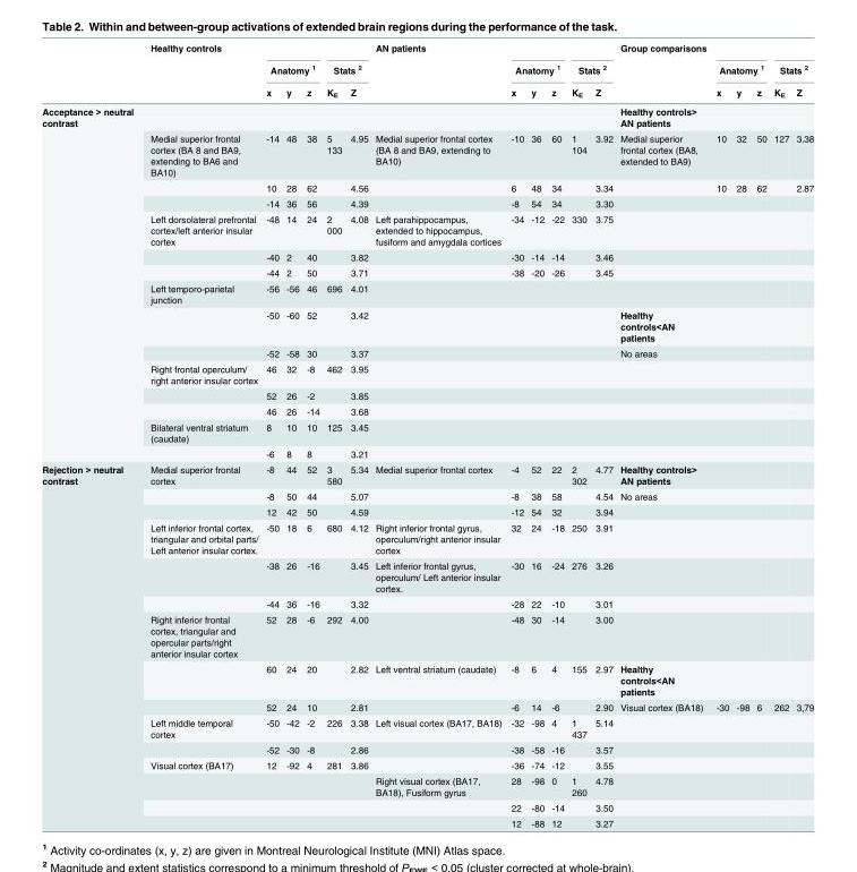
<table><thead><tr><td rowspan="3"></td><td rowspan="3">Healthy controls</td><td></td><td></td><td></td><td></td><td></td><td rowspan="3">AN patients</td><td></td><td></td><td></td><td></td><td></td><td rowspan="3">Group comparisons</td><td></td><td></td><td></td><td></td><td></td></tr><tr><td colspan="3">Anatomy <sup>1</sup></td><td colspan="2">Stats <sup>2</sup></td><td colspan="3">Anatomy <sup>1</sup></td><td colspan="2">Stats <sup>2</sup></td><td colspan="3">Anatomy <sup>1</sup></td><td colspan="2">Stats <sup>2</sup></td></tr><tr><td>x</td><td>y</td><td>z</td><td>K<sub>E</sub></td><td>Z</td><td>x</td><td>y</td><td>z</td><td>K<sub>E</sub></td><td>Z</td><td>x</td><td>y</td><td>z</td><td>K<sub>E</sub></td><td>Z</td></tr></thead><tbody><tr><td rowspan="15">Acceptance &gt; neutral contrast</td><td></td><td></td><td></td><td></td><td></td><td></td><td></td><td></td><td></td><td></td><td></td><td></td><td>Healthy controls&gt; AN patients</td><td></td><td></td><td></td><td></td><td></td></tr><tr><td>Medial superior frontal cortex (BA 8 and BA9, extending to BA6 and BA10)</td><td>-14</td><td>48</td><td>38</td><td>5 133</td><td>4.95</td><td>Medial superior frontal cortex (BA 8 and BA9, extending to BA10)</td><td>-10</td><td>36</td><td>60</td><td>1 104</td><td>3.92</td><td>Medial superior frontal cortex (BA8, extended to BA9)</td><td>10</td><td>32</td><td>50</td><td>127</td><td>3.38</td></tr><tr><td></td><td>10</td><td>28</td><td>62</td><td></td><td>4.56</td><td></td><td>6</td><td>48</td><td>34</td><td></td><td>3.34</td><td></td><td>10</td><td>28</td><td>62</td><td></td><td>2.87</td></tr><tr><td></td><td>-14</td><td>36</td><td>56</td><td></td><td>4.39</td><td></td><td>-8</td><td>54</td><td>34</td><td></td><td>3.30</td><td></td><td></td><td></td><td></td><td></td><td></td></tr><tr><td>Left dorsolateral prefrontal cortex/left anterior insular cortex</td><td>-48</td><td>14</td><td>24</td><td>2 000</td><td>4.08</td><td>Left parahippocampus, extended to hippocampus, fusiform and amygdala cortices</td><td>-34</td><td>-12</td><td>-22</td><td>330</td><td>3.75</td><td></td><td></td><td></td><td></td><td></td><td></td></tr><tr><td></td><td>-40</td><td>2</td><td>40</td><td></td><td>3.82</td><td></td><td>-30</td><td>-14</td><td>-14</td><td></td><td>3.46</td><td></td><td></td><td></td><td></td><td></td><td></td></tr><tr><td></td><td>-44</td><td>2</td><td>50</td><td></td><td>3.71</td><td></td><td>-38</td><td>-20</td><td>-26</td><td></td><td>3.45</td><td></td><td></td><td></td><td></td><td></td><td></td></tr><tr><td>Left temporo-parietal junction</td><td>-56</td><td>-56</td><td>46</td><td>696</td><td>4.01</td><td></td><td></td><td></td><td></td><td></td><td></td><td></td><td></td><td></td><td></td><td></td><td></td></tr><tr><td></td><td>-50</td><td>-60</td><td>52</td><td></td><td>3.42</td><td></td><td></td><td></td><td></td><td></td><td></td><td>Healthy controls&lt;AN patients</td><td></td><td></td><td></td><td></td><td></td></tr><tr><td></td><td>-52</td><td>-58</td><td>30</td><td></td><td>3.37</td><td></td><td></td><td></td><td></td><td></td><td></td><td>No areas</td><td></td><td></td><td></td><td></td><td></td></tr><tr><td>Right frontal operculum/ right anterior insular cortex</td><td>46</td><td>32</td><td>-8</td><td>462</td><td>3.95</td><td></td><td></td><td></td><td></td><td></td><td></td><td></td><td></td><td></td><td></td><td></td><td></td></tr><tr><td></td><td>52</td><td>26</td><td>-2</td><td></td><td>3.85</td><td></td><td></td><td></td><td></td><td></td><td></td><td></td><td></td><td></td><td></td><td></td><td></td></tr><tr><td></td><td>46</td><td>26</td><td>-14</td><td></td><td>3.68</td><td></td><td></td><td></td><td></td><td></td><td></td><td></td><td></td><td></td><td></td><td></td><td></td></tr><tr><td>Bilateral ventral striatum (caudate)</td><td>8</td><td>10</td><td>10</td><td>125</td><td>3.45</td><td></td><td></td><td></td><td></td><td></td><td></td><td></td><td></td><td></td><td></td><td></td><td></td></tr><tr><td></td><td>-6</td><td>8</td><td>8</td><td></td><td>3.21</td><td></td><td></td><td></td><td></td><td></td><td></td><td></td><td></td><td></td><td></td><td></td><td></td></tr><tr><td rowspan="15">Rejection &gt; neutral contrast</td><td>Medial superior frontal cortex</td><td>-8</td><td>44</td><td>52</td><td>3 580</td><td>5.34</td><td>Medial superior frontal cortex</td><td>-4</td><td>52</td><td>22</td><td>2 302</td><td>4.77</td><td>Healthy controls&gt; AN patients</td><td></td><td></td><td></td><td></td><td></td></tr><tr><td></td><td>-8</td><td>50</td><td>44</td><td></td><td>5.07</td><td></td><td>-8</td><td>38</td><td>58</td><td></td><td>4.54</td><td>No areas</td><td></td><td></td><td></td><td></td><td></td></tr><tr><td></td><td>12</td><td>42</td><td>50</td><td></td><td>4.59</td><td></td><td>-12</td><td>54</td><td>32</td><td></td><td>3.94</td><td></td><td></td><td></td><td></td><td></td><td></td></tr><tr><td>Left inferior frontal cortex, triangular and orbital parts/ Left anterior insular cortex.</td><td>-50</td><td>18</td><td>6</td><td>680</td><td>4.12</td><td>Right inferior frontal gyrus, operculum/right anterior insular cortex</td><td>32</td><td>24</td><td>-18</td><td>250</td><td>3.91</td><td></td><td></td><td></td><td></td><td></td><td></td></tr><tr><td></td><td>-38</td><td>26</td><td>-16</td><td></td><td>3.45</td><td>Left inferior frontal gyrus, operculum/ Left anterior insular cortex.</td><td>-30</td><td>16</td><td>-24</td><td>276</td><td>3.26</td><td></td><td></td><td></td><td></td><td></td><td></td></tr><tr><td></td><td>-44</td><td>36</td><td>-16</td><td></td><td>3.32</td><td></td><td>-28</td><td>22</td><td>-10</td><td></td><td>3.01</td><td></td><td></td><td></td><td></td><td></td><td></td></tr><tr><td>Right inferior frontal cortex, triangular and opercular parts/right anterior insular cortex</td><td>52</td><td>28</td><td>-6</td><td>292</td><td>4.00</td><td></td><td>-48</td><td>30</td><td>-14</td><td></td><td>3.00</td><td></td><td></td><td></td><td></td><td></td><td></td></tr><tr><td></td><td>60</td><td>24</td><td>20</td><td></td><td>2.82</td><td>Left ventral striatum (caudate)</td><td>-8</td><td>6</td><td>4</td><td>155</td><td>2.97</td><td>Healthy controls&lt;AN patients</td><td></td><td></td><td></td><td></td><td></td></tr><tr><td></td><td>52</td><td>24</td><td>10</td><td></td><td>2.81</td><td></td><td>-6</td><td>14</td><td>-6</td><td></td><td>2.90</td><td>Visual cortex (BA18)</td><td>-30</td><td>-98</td><td>6</td><td>262</td><td>3,79</td></tr><tr><td>Left middle temporal cortex</td><td>-50</td><td>-42</td><td>-2</td><td>226</td><td>3.38</td><td>Left visual cortex (BA17, BA18)</td><td>-32</td><td>-98</td><td>4</td><td>1 437</td><td>5.14</td><td></td><td></td><td></td><td></td><td></td><td></td></tr><tr><td></td><td>-52</td><td>-30</td><td>-8</td><td></td><td>2.86</td><td></td><td>-38</td><td>-58</td><td>-16</td><td></td><td>3.57</td><td></td><td></td><td></td><td></td><td></td><td></td></tr><tr><td>Visual cortex (BA17)</td><td>12</td><td>-92</td><td>4</td><td>281</td><td>3.86</td><td></td><td>-36</td><td>-74</td><td>-12</td><td></td><td>3.55</td><td></td><td></td><td></td><td></td><td></td><td></td></tr><tr><td></td><td></td><td></td><td></td><td></td><td></td><td>Right visual cortex (BA17, BA18), Fusiform gyrus</td><td>28</td><td>-98</td><td>0</td><td>1 260</td><td>4.78</td><td></td><td></td><td></td><td></td><td></td><td></td></tr><tr><td></td><td></td><td></td><td></td><td></td><td></td><td></td><td>22</td><td>-80</td><td>-14</td><td></td><td>3.50</td><td></td><td></td><td></td><td></td><td></td><td></td></tr><tr><td></td><td></td><td></td><td></td><td></td><td></td><td></td><td>12</td><td>-88</td><td>12</td><td></td><td>3.27</td><td></td><td></td><td></td><td></td><td></td><td></td></tr></tbody></table>